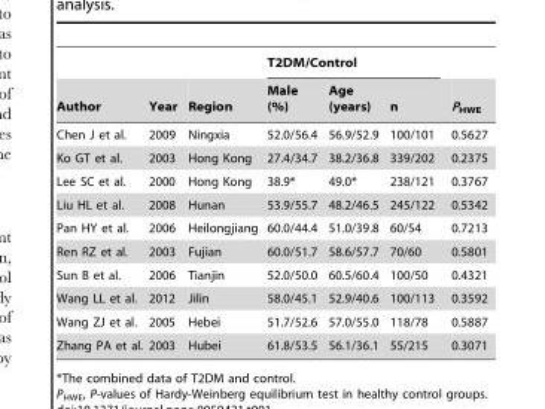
<table><thead><tr><td rowspan="2">Author</td><td rowspan="2">Year</td><td rowspan="2">Region</td><td colspan="3">T2DM/Control</td><td rowspan="2">P<sub>HWE</sub></td></tr><tr><td>Male (%)</td><td>Age (years)</td><td>n</td></tr></thead><tbody><tr><td>Chen J et al.</td><td>2009</td><td>Ningxia</td><td>52.0/56.4</td><td>56.9/52.9</td><td>100/101</td><td>0.5627</td></tr><tr><td>Ko GT et al.</td><td>2003</td><td>Hong Kong</td><td>27.4/34.7</td><td>38.2/36.8</td><td>339/202</td><td>0.2375</td></tr><tr><td>Lee SC et al.</td><td>2000</td><td>Hong Kong</td><td>38.9*</td><td>49.0*</td><td>238/121</td><td>0.3767</td></tr><tr><td>Liu HL et al.</td><td>2008</td><td>Hunan</td><td>53.9/55.7</td><td>48.2/46.5</td><td>245/122</td><td>0.5342</td></tr><tr><td>Pan HY et al.</td><td>2006</td><td>Heilongjiang</td><td>60.0/44.4</td><td>51.0/39.8</td><td>60/54</td><td>0.7213</td></tr><tr><td>Ren RZ et al.</td><td>2003</td><td>Fujian</td><td>60.0/51.7</td><td>58.6/57.7</td><td>70/60</td><td>0.5801</td></tr><tr><td>Sun B et al.</td><td>2006</td><td>Tianjin</td><td>52.0/50.0</td><td>60.5/60.4</td><td>100/50</td><td>0.4321</td></tr><tr><td>Wang LL et al.</td><td>2012</td><td>Jilin</td><td>58.0/45.1</td><td>52.9/40.6</td><td>100/113</td><td>0.3592</td></tr><tr><td>Wang ZJ et al.</td><td>2005</td><td>Hebei</td><td>51.7/52.6</td><td>57.0/55.0</td><td>118/78</td><td>0.5887</td></tr><tr><td>Zhang PA et al.</td><td>2003</td><td>Hubei</td><td>61.8/53.5</td><td>56.1/36.1</td><td>55/215</td><td>0.3071</td></tr></tbody></table>